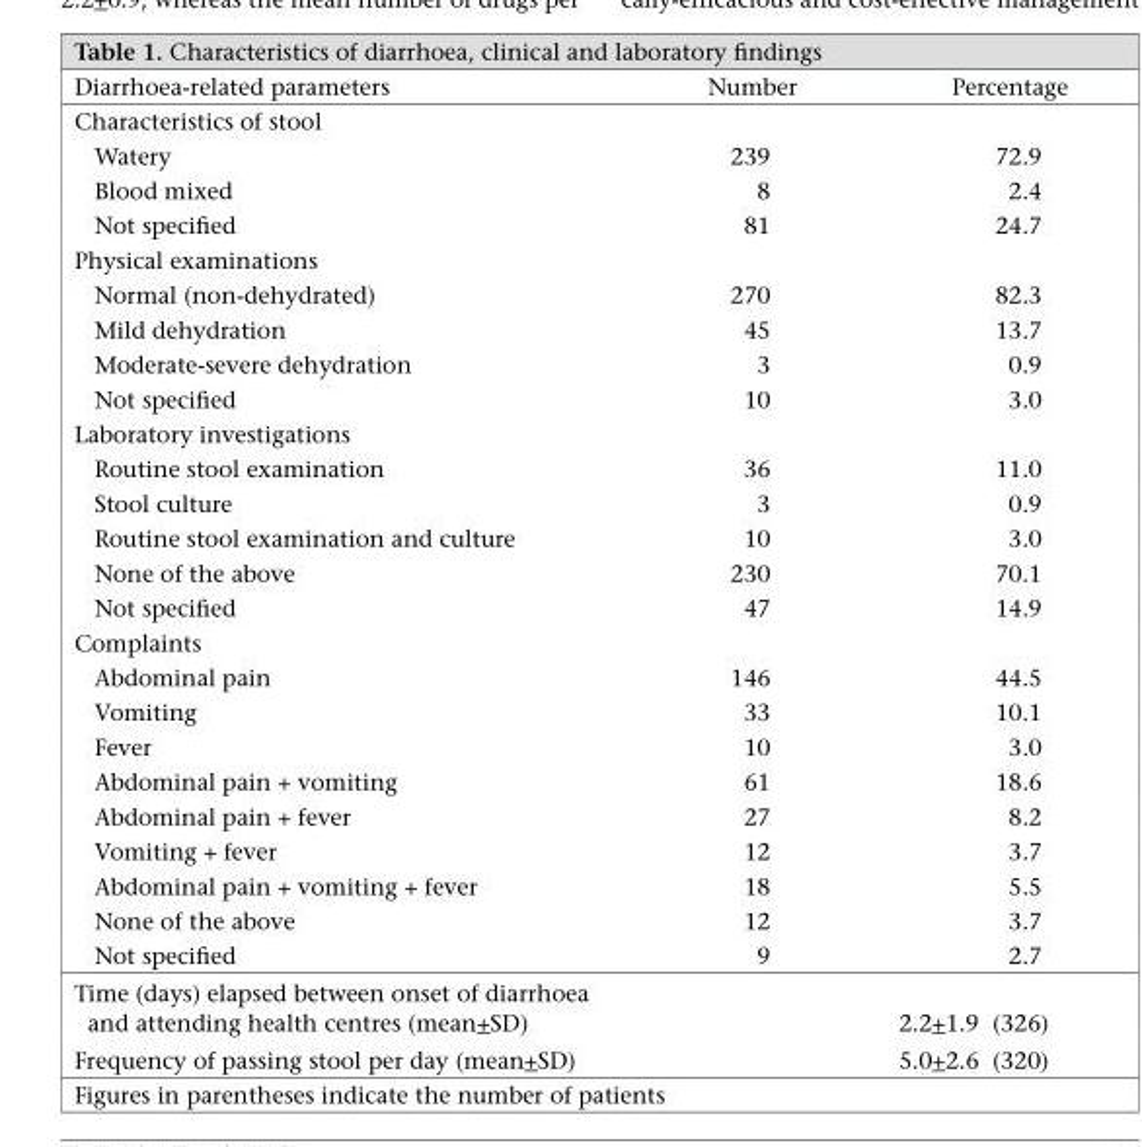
<table><thead><tr><td>Diarrhoea-related parameters</td><td>Number</td><td>Percentage</td></tr></thead><tbody><tr><td colspan="3">Characteristics of stool</td></tr><tr><td>Watery</td><td>239</td><td>72.9</td></tr><tr><td>Blood mixed</td><td>8</td><td>2.4</td></tr><tr><td>Not specified</td><td>81</td><td>24.7</td></tr><tr><td colspan="3">Physical examinations</td></tr><tr><td>Normal (non-dehydrated)</td><td>270</td><td>82.3</td></tr><tr><td>Mild dehydration</td><td>45</td><td>13.7</td></tr><tr><td>Moderate-severe dehydration</td><td>3</td><td>0.9</td></tr><tr><td>Not specified</td><td>10</td><td>3.0</td></tr><tr><td colspan="3">Laboratory investigations</td></tr><tr><td>Routine stool examination</td><td>36</td><td>11.0</td></tr><tr><td>Stool culture</td><td>3</td><td>0.9</td></tr><tr><td>Routine stool examination and culture</td><td>10</td><td>3.0</td></tr><tr><td>None of the above</td><td>230</td><td>70.1</td></tr><tr><td>Not specified</td><td>47</td><td>14.9</td></tr><tr><td colspan="3">Complaints</td></tr><tr><td>Abdominal pain</td><td>146</td><td>44.5</td></tr><tr><td>Vomiting</td><td>33</td><td>10.1</td></tr><tr><td>Fever</td><td>10</td><td>3.0</td></tr><tr><td>Abdominal pain + vomiting</td><td>61</td><td>18.6</td></tr><tr><td>Abdominal pain + fever</td><td>27</td><td>8.2</td></tr><tr><td>Vomiting + fever</td><td>12</td><td>3.7</td></tr><tr><td>Abdominal pain + vomiting + fever</td><td>18</td><td>5.5</td></tr><tr><td>None of the above</td><td>12</td><td>3.7</td></tr><tr><td>Not specified</td><td>9</td><td>2.7</td></tr><tr><td>Time (days) elapsed between onset of diarrhoea and attending health centres (mean+SD)</td><td></td><td>2.2+1.9 (326)</td></tr><tr><td>Frequency of passing stool per day (mean+SD)</td><td></td><td>5.0+2.6 (320)</td></tr></tbody></table>